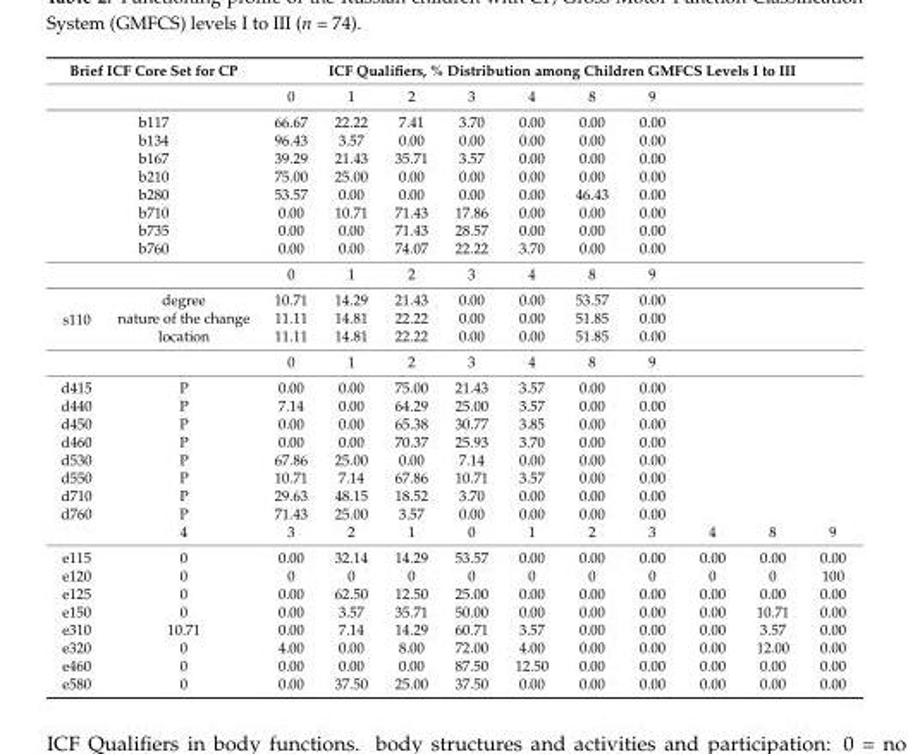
<table><thead><tr><td colspan="2">Brief ICF Core Set for CP</td><td colspan="10">ICF Qualifiers, % Distribution among Children GMFCS Levels I to III</td></tr></thead><tbody><tr><td colspan="2"></td><td>0</td><td>1</td><td>2</td><td>3</td><td>4</td><td>8</td><td>9</td><td colspan="3"></td></tr><tr><td colspan="2">b117</td><td>66.67</td><td>22.22</td><td>7.41</td><td>3.70</td><td>0.00</td><td>0.00</td><td>0.00</td><td colspan="3"></td></tr><tr><td colspan="2">b134</td><td>96.43</td><td>3.57</td><td>0.00</td><td>0.00</td><td>0.00</td><td>0.00</td><td>0.00</td><td colspan="3"></td></tr><tr><td colspan="2">b167</td><td>39.29</td><td>21.43</td><td>35.71</td><td>3.57</td><td>0.00</td><td>0.00</td><td>0.00</td><td colspan="3"></td></tr><tr><td colspan="2">b210</td><td>75.00</td><td>25.00</td><td>0.00</td><td>0.00</td><td>0.00</td><td>0.00</td><td>0.00</td><td colspan="3"></td></tr><tr><td colspan="2">b280</td><td>53.57</td><td>0.00</td><td>0.00</td><td>0.00</td><td>0.00</td><td>46.43</td><td>0.00</td><td colspan="3"></td></tr><tr><td colspan="2">b710</td><td>0.00</td><td>10.71</td><td>71.43</td><td>17.86</td><td>0.00</td><td>0.00</td><td>0.00</td><td colspan="3"></td></tr><tr><td colspan="2">b735</td><td>0.00</td><td>0.00</td><td>71.43</td><td>28.57</td><td>0.00</td><td>0.00</td><td>0.00</td><td colspan="3"></td></tr><tr><td colspan="2">b760</td><td>0.00</td><td>0.00</td><td>74.07</td><td>22.22</td><td>3.70</td><td>0.00</td><td>0.00</td><td colspan="3"></td></tr><tr><td></td><td></td><td>0</td><td>1</td><td>2</td><td>3</td><td>4</td><td>8</td><td>9</td><td colspan="3"></td></tr><tr><td rowspan="4">s110</td><td>degree</td><td>10.71</td><td>14.29</td><td>21.43</td><td>0.00</td><td>0.00</td><td>53.57</td><td>0.00</td><td colspan="3"></td></tr><tr><td>nature of the change</td><td>11.11</td><td>14.81</td><td>22.22</td><td>0.00</td><td>0.00</td><td>51.85</td><td>0.00</td><td colspan="3"></td></tr><tr><td>location</td><td>11.11</td><td>14.81</td><td>22.22</td><td>0.00</td><td>0.00</td><td>51.85</td><td>0.00</td><td colspan="3"></td></tr><tr><td></td><td>0</td><td>1</td><td>2</td><td>3</td><td>4</td><td>8</td><td>9</td><td colspan="3"></td></tr><tr><td>d415</td><td>P</td><td>0.00</td><td>0.00</td><td>75.00</td><td>21.43</td><td>3.57</td><td>0.00</td><td>0.00</td><td colspan="3"></td></tr><tr><td>d440</td><td>P</td><td>7.14</td><td>0.00</td><td>64.29</td><td>25.00</td><td>3.57</td><td>0.00</td><td>0.00</td><td colspan="3"></td></tr><tr><td>d450</td><td>P</td><td>0.00</td><td>0.00</td><td>65.38</td><td>30.77</td><td>3.85</td><td>0.00</td><td>0.00</td><td colspan="3"></td></tr><tr><td>d460</td><td>P</td><td>0.00</td><td>0.00</td><td>70.37</td><td>25.93</td><td>3.70</td><td>0.00</td><td>0.00</td><td colspan="3"></td></tr><tr><td>d530</td><td>P</td><td>67.86</td><td>25.00</td><td>0.00</td><td>7.14</td><td>0.00</td><td>0.00</td><td>0.00</td><td colspan="3"></td></tr><tr><td>d550</td><td>P</td><td>10.71</td><td>7.14</td><td>67.86</td><td>10.71</td><td>3.57</td><td>0.00</td><td>0.00</td><td colspan="3"></td></tr><tr><td>d710</td><td>P</td><td>29.63</td><td>48.15</td><td>18.52</td><td>3.70</td><td>0.00</td><td>0.00</td><td>0.00</td><td colspan="3"></td></tr><tr><td rowspan="2">d760</td><td>P</td><td>71.43</td><td>25.00</td><td>3.57</td><td>0.00</td><td>0.00</td><td>0.00</td><td>0.00</td><td colspan="3"></td></tr><tr><td>4</td><td>3</td><td>2</td><td>1</td><td>0</td><td>1</td><td>2</td><td>3</td><td>4</td><td>8</td><td>9</td></tr><tr><td>e115</td><td>0</td><td>0.00</td><td>32.14</td><td>14.29</td><td>53.57</td><td>0.00</td><td>0.00</td><td>0.00</td><td>0.00</td><td>0.00</td><td>0.00</td></tr><tr><td>e120</td><td>0</td><td>0</td><td>0</td><td>0</td><td>0</td><td>0</td><td>0</td><td>0</td><td>0</td><td>0</td><td>100</td></tr><tr><td>e125</td><td>0</td><td>0.00</td><td>62.50</td><td>12.50</td><td>25.00</td><td>0.00</td><td>0.00</td><td>0.00</td><td>0.00</td><td>0.00</td><td>0.00</td></tr><tr><td>e150</td><td>0</td><td>0.00</td><td>3.57</td><td>35.71</td><td>50.00</td><td>0.00</td><td>0.00</td><td>0.00</td><td>0.00</td><td>10.71</td><td>0.00</td></tr><tr><td>e310</td><td>10.71</td><td>0.00</td><td>7.14</td><td>14.29</td><td>60.71</td><td>3.57</td><td>0.00</td><td>0.00</td><td>0.00</td><td>3.57</td><td>0.00</td></tr><tr><td>e320</td><td>0</td><td>4.00</td><td>0.00</td><td>8.00</td><td>72.00</td><td>4.00</td><td>0.00</td><td>0.00</td><td>0.00</td><td>12.00</td><td>0.00</td></tr><tr><td>e460</td><td>0</td><td>0.00</td><td>0.00</td><td>0.00</td><td>87.50</td><td>12.50</td><td>0.00</td><td>0.00</td><td>0.00</td><td>0.00</td><td>0.00</td></tr><tr><td>e580</td><td>0</td><td>0.00</td><td>37.50</td><td>25.00</td><td>37.50</td><td>0.00</td><td>0.00</td><td>0.00</td><td>0.00</td><td>0.00</td><td>0.00</td></tr></tbody></table>